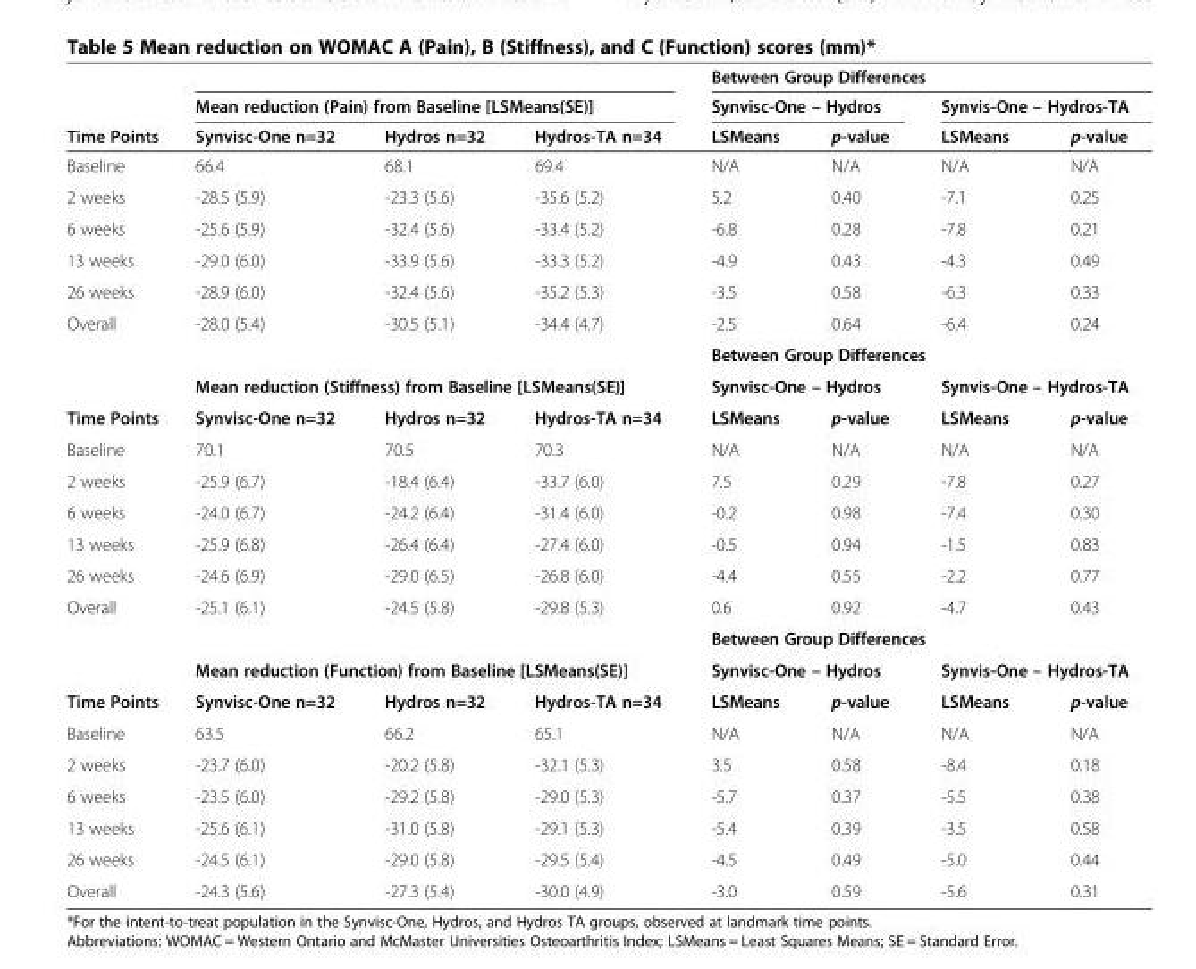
<table><thead><tr><td rowspan="3">Time Points</td><td></td><td></td><td></td><td colspan="4">Between Group Differences</td></tr><tr><td colspan="3">Mean reduction (Pain) from Baseline [LSMeans(SE)]</td><td colspan="2">Synvisc-One – Hydros</td><td colspan="2">Synvis-One – Hydros-TA</td></tr><tr><td>Synvisc-One n=32</td><td>Hydros n=32</td><td>Hydros-TA n=34</td><td>LSMeans</td><td>p-value</td><td>LSMeans</td><td>p-value</td></tr></thead><tbody><tr><td>Baseline</td><td>66.4</td><td>68.1</td><td>69.4</td><td>N/A</td><td>N/A</td><td>N/A</td><td>N/A</td></tr><tr><td>2 weeks</td><td>-28.5 (5.9)</td><td>-23.3 (5.6)</td><td>-35.6 (5.2)</td><td>5.2</td><td>0.40</td><td>-7.1</td><td>0.25</td></tr><tr><td>6 weeks</td><td>-25.6 (5.9)</td><td>-32.4 (5.6)</td><td>-33.4 (5.2)</td><td>-6.8</td><td>0.28</td><td>-7.8</td><td>0.21</td></tr><tr><td>13 weeks</td><td>-29.0 (6.0)</td><td>-33.9 (5.6)</td><td>-33.3 (5.2)</td><td>-4.9</td><td>0.43</td><td>-4.3</td><td>0.49</td></tr><tr><td>26 weeks</td><td>-28.9 (6.0)</td><td>-32.4 (5.6)</td><td>-35.2 (5.3)</td><td>-3.5</td><td>0.58</td><td>-6.3</td><td>0.33</td></tr><tr><td rowspan="3">Overall</td><td>-28.0 (5.4)</td><td>-30.5 (5.1)</td><td>-34.4 (4.7)</td><td>-2.5</td><td>0.64</td><td>-6.4</td><td>0.24</td></tr><tr><td colspan="3"></td><td colspan="4">Between Group Differences</td></tr><tr><td colspan="3">Mean reduction (Stiffness) from Baseline [LSMeans(SE)]</td><td colspan="2">Synvisc-One – Hydros</td><td colspan="2">Synvis-One – Hydros-TA</td></tr><tr><td>Time Points</td><td>Synvisc-One n=32</td><td>Hydros n=32</td><td>Hydros-TA n=34</td><td>LSMeans</td><td>p-value</td><td>LSMeans</td><td>p-value</td></tr><tr><td>Baseline</td><td>70.1</td><td>70.5</td><td>70.3</td><td>N/A</td><td>N/A</td><td>N/A</td><td>N/A</td></tr><tr><td>2 weeks</td><td>-25.9 (6.7)</td><td>-18.4 (6.4)</td><td>-33.7 (6.0)</td><td>7.5</td><td>0.29</td><td>-7.8</td><td>0.27</td></tr><tr><td>6 weeks</td><td>-24.0 (6.7)</td><td>-24.2 (6.4)</td><td>-31.4 (6.0)</td><td>-0.2</td><td>0.98</td><td>-7.4</td><td>0.30</td></tr><tr><td>13 weeks</td><td>-25.9 (6.8)</td><td>-26.4 (6.4)</td><td>-27.4 (6.0)</td><td>-0.5</td><td>0.94</td><td>-1.5</td><td>0.83</td></tr><tr><td>26 weeks</td><td>-24.6 (6.9)</td><td>-29.0 (6.5)</td><td>-26.8 (6.0)</td><td>-4.4</td><td>0.55</td><td>-2.2</td><td>0.77</td></tr><tr><td rowspan="3">Overall</td><td>-25.1 (6.1)</td><td>-24.5 (5.8)</td><td>-29.8 (5.3)</td><td>0.6</td><td>0.92</td><td>-4.7</td><td>0.43</td></tr><tr><td colspan="3"></td><td colspan="4">Between Group Differences</td></tr><tr><td colspan="3">Mean reduction (Function) from Baseline [LSMeans(SE)]</td><td colspan="2">Synvisc-One – Hydros</td><td colspan="2">Synvis-One – Hydros-TA</td></tr><tr><td>Time Points</td><td>Synvisc-One n=32</td><td>Hydros n=32</td><td>Hydros-TA n=34</td><td>LSMeans</td><td>p-value</td><td>LSMeans</td><td>p-value</td></tr><tr><td>Baseline</td><td>63.5</td><td>66.2</td><td>65.1</td><td>N/A</td><td>N/A</td><td>N/A</td><td>N/A</td></tr><tr><td>2 weeks</td><td>-23.7 (6.0)</td><td>-20.2 (5.8)</td><td>-32.1 (5.3)</td><td>3.5</td><td>0.58</td><td>-8.4</td><td>0.18</td></tr><tr><td>6 weeks</td><td>-23.5 (6.0)</td><td>-29.2 (5.8)</td><td>-29.0 (5.3)</td><td>-5.7</td><td>0.37</td><td>-5.5</td><td>0.38</td></tr><tr><td>13 weeks</td><td>-25.6 (6.1)</td><td>-31.0 (5.8)</td><td>-29.1 (5.3)</td><td>-5.4</td><td>0.39</td><td>-3.5</td><td>0.58</td></tr><tr><td>26 weeks</td><td>-24.5 (6.1)</td><td>-29.0 (5.8)</td><td>-29.5 (5.4)</td><td>-4.5</td><td>0.49</td><td>-5.0</td><td>0.44</td></tr><tr><td>Overall</td><td>-24.3 (5.6)</td><td>-27.3 (5.4)</td><td>-30.0 (4.9)</td><td>-3.0</td><td>0.59</td><td>-5.6</td><td>0.31</td></tr></tbody></table>